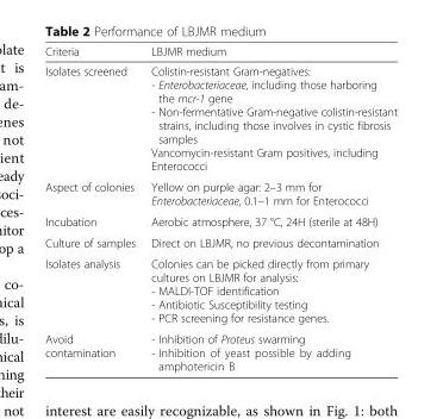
<table><thead><tr><td>Criteria</td><td>LBJMR medium</td></tr></thead><tbody><tr><td>Isolates screened</td><td>Colistin-resistant Gram-negatives: - Enterobacteriaceae, including those harboring the mcr-1 gene - Non-fermentative Gram-negative colistin-resistant strains, including those involves in cystic fibrosis samples Vancomycin-resistant Gram positives, including Enterococci</td></tr><tr><td>Aspect of colonies</td><td>Yellow on purple agar: 2–3 mm for Enterobacteriaceae, 0.1–1 mm for Enterococci</td></tr><tr><td>Incubation</td><td>Aerobic atmosphere, 37 °C, 24H (sterile at 48H)</td></tr><tr><td>Culture of samples</td><td>Direct on LBJMR, no previous decontamination</td></tr><tr><td>Isolates analysis</td><td>Colonies can be picked directly from primary cultures on LBJMR for analysis: - MALDI-TOF identification - Antibiotic Susceptibility testing - PCR screening for resistance genes.</td></tr><tr><td>Avoid contamination</td><td>- Inhibition of Proteus swarming - Inhibition of yeast possible by adding amphotericin B</td></tr></tbody></table>